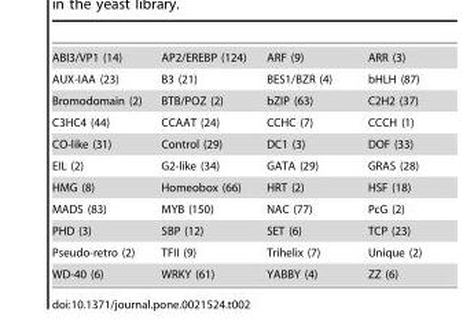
<table><tbody><tr><td>ABI3/VP1 (14)</td><td>AP2/EREBP (124)</td><td>ARF (9)</td><td>ARR (3)</td></tr><tr><td>AUX-IAA (23)</td><td>B3 (21)</td><td>BES1/BZR (4)</td><td>bHLH (87)</td></tr><tr><td>Bromodomain (2)</td><td>BTB/POZ (2)</td><td>bZIP (63)</td><td>C2H2 (37)</td></tr><tr><td>C3HC4 (44)</td><td>CCAAT (24)</td><td>CCHC (7)</td><td>CCCH (1)</td></tr><tr><td>CO-like (31)</td><td>Control (29)</td><td>DC1 (3)</td><td>DOF (33)</td></tr><tr><td>EIL (2)</td><td>G2-like (34)</td><td>GATA (29)</td><td>GRAS (28)</td></tr><tr><td>HMG (8)</td><td>Homeobox (66)</td><td>HRT (2)</td><td>HSF (18)</td></tr><tr><td>MADS (83)</td><td>MYB (150)</td><td>NAC (77)</td><td>PcG (2)</td></tr><tr><td>PHD (3)</td><td>SBP (12)</td><td>SET (6)</td><td>TCP (23)</td></tr><tr><td>Pseudo-retro (2)</td><td>TFII (9)</td><td>Trihelix (7)</td><td>Unique (2)</td></tr><tr><td>WD-40 (6)</td><td>WRKY (61)</td><td>YABBY (4)</td><td>ZZ (6)</td></tr></tbody></table>